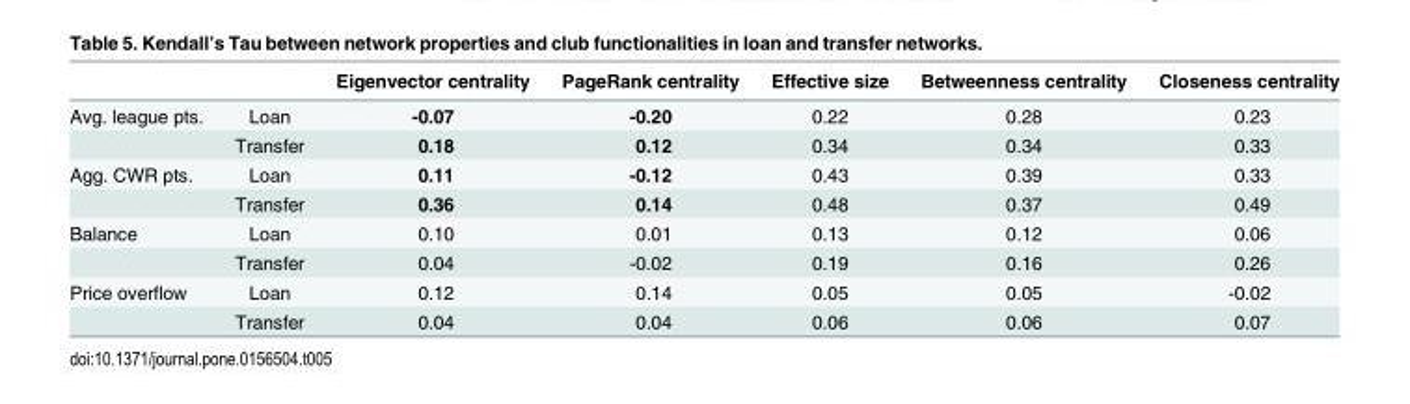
<table><thead><tr><td></td><td></td><td>Eigenvector centrality</td><td>PageRank centrality</td><td>Effective size</td><td>Betweenness centrality</td><td>Closeness centrality</td></tr></thead><tbody><tr><td rowspan="2">Avg. league pts.</td><td>Loan</td><td>-0.07</td><td>-0.20</td><td>0.22</td><td>0.28</td><td>0.23</td></tr><tr><td>Transfer</td><td>0.18</td><td>0.12</td><td>0.34</td><td>0.34</td><td>0.33</td></tr><tr><td rowspan="2">Agg. CWR pts.</td><td>Loan</td><td>0.11</td><td>-0.12</td><td>0.43</td><td>0.39</td><td>0.33</td></tr><tr><td>Transfer</td><td>0.36</td><td>0.14</td><td>0.48</td><td>0.37</td><td>0.49</td></tr><tr><td rowspan="2">Balance</td><td>Loan</td><td>0.10</td><td>0.01</td><td>0.13</td><td>0.12</td><td>0.06</td></tr><tr><td>Transfer</td><td>0.04</td><td>-0.02</td><td>0.19</td><td>0.16</td><td>0.26</td></tr><tr><td rowspan="2">Price overflow</td><td>Loan</td><td>0.12</td><td>0.14</td><td>0.05</td><td>0.05</td><td>-0.02</td></tr><tr><td>Transfer</td><td>0.04</td><td>0.04</td><td>0.06</td><td>0.06</td><td>0.07</td></tr></tbody></table>